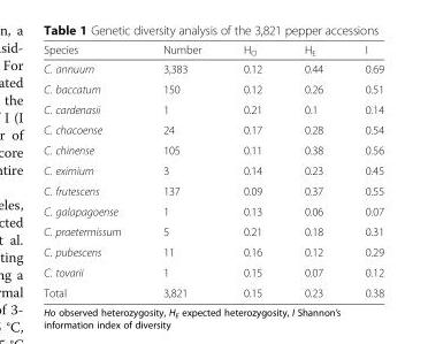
<table><thead><tr><td>Species</td><td>Number</td><td>H<sub>O</sub></td><td>H<sub>E</sub></td><td>I</td></tr></thead><tbody><tr><td>C. annuum</td><td>3,383</td><td>0.12</td><td>0.44</td><td>0.69</td></tr><tr><td>C. baccatum</td><td>150</td><td>0.12</td><td>0.26</td><td>0.51</td></tr><tr><td>C. cardenasii</td><td>1</td><td>0.21</td><td>0.1</td><td>0.14</td></tr><tr><td>C. chacoense</td><td>24</td><td>0.17</td><td>0.28</td><td>0.54</td></tr><tr><td>C. chinense</td><td>105</td><td>0.11</td><td>0.38</td><td>0.56</td></tr><tr><td>C. eximium</td><td>3</td><td>0.14</td><td>0.23</td><td>0.45</td></tr><tr><td>C. frutescens</td><td>137</td><td>0.09</td><td>0.37</td><td>0.55</td></tr><tr><td>C. galapagoense</td><td>1</td><td>0.13</td><td>0.06</td><td>0.07</td></tr><tr><td>C. praetermissum</td><td>5</td><td>0.21</td><td>0.18</td><td>0.31</td></tr><tr><td>C. pubescens</td><td>11</td><td>0.16</td><td>0.12</td><td>0.29</td></tr><tr><td>C. tovarii</td><td>1</td><td>0.15</td><td>0.07</td><td>0.12</td></tr><tr><td>Total</td><td>3,821</td><td>0.15</td><td>0.23</td><td>0.38</td></tr></tbody></table>